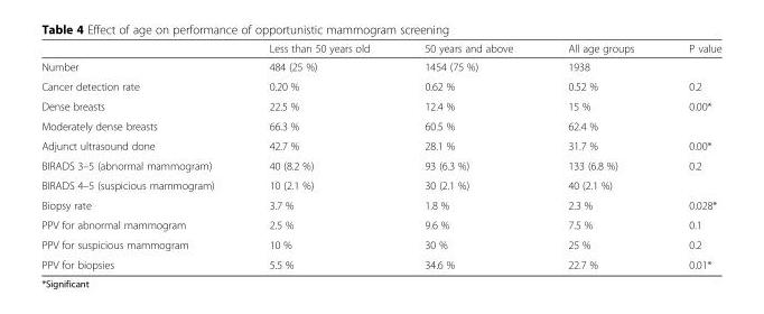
<table><thead><tr><td></td><td>Less than 50 years old</td><td>50 years and above</td><td>All age groups</td><td>P value</td></tr></thead><tbody><tr><td>Number</td><td>484 (25 %)</td><td>1454 (75 %)</td><td>1938</td><td></td></tr><tr><td>Cancer detection rate</td><td>0.20 %</td><td>0.62 %</td><td>0.52 %</td><td>0.2</td></tr><tr><td>Dense breasts</td><td>22.5 %</td><td>12.4 %</td><td>15 %</td><td rowspan="2">0.00*</td></tr><tr><td>Moderately dense breasts</td><td>66.3 %</td><td>60.5 %</td><td>62.4 %</td></tr><tr><td>Adjunct ultrasound done</td><td>42.7 %</td><td>28.1 %</td><td>31.7 %</td><td>0.00*</td></tr><tr><td>BIRADS 3–5 (abnormal mammogram)</td><td>40 (8.2 %)</td><td>93 (6.3 %)</td><td>133 (6.8 %)</td><td rowspan="2">0.2</td></tr><tr><td>BIRADS 4–5 (suspicious mammogram)</td><td>10 (2.1 %)</td><td>30 (2.1 %)</td><td>40 (2.1 %)</td></tr><tr><td>Biopsy rate</td><td>3.7 %</td><td>1.8 %</td><td>2.3 %</td><td>0.028*</td></tr><tr><td>PPV for abnormal mammogram</td><td>2.5 %</td><td>9.6 %</td><td>7.5 %</td><td>0.1</td></tr><tr><td>PPV for suspicious mammogram</td><td>10 %</td><td>30 %</td><td>25 %</td><td>0.2</td></tr><tr><td>PPV for biopsies</td><td>5.5 %</td><td>34.6 %</td><td>22.7 %</td><td>0.01*</td></tr></tbody></table>